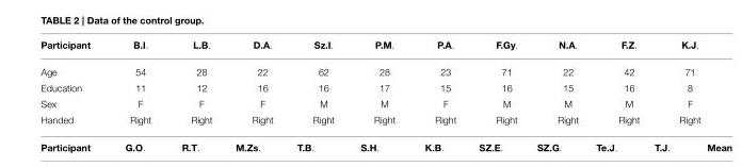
<table><thead><tr><td>Participant</td><td>B.I.</td><td>L.B.</td><td>D.A.</td><td>Sz.I.</td><td>P.M.</td><td>P.A.</td><td>F.Gy.</td><td>N.A.</td><td>F.Z.</td><td>K.J.</td></tr></thead><tbody><tr><td>Age</td><td>54</td><td>28</td><td>22</td><td>62</td><td>28</td><td>23</td><td>71</td><td>22</td><td>42</td><td>71</td></tr><tr><td>Education</td><td>11</td><td>12</td><td>16</td><td>16</td><td>17</td><td>15</td><td>16</td><td>15</td><td>16</td><td>8</td></tr><tr><td>Sex</td><td>F</td><td>F</td><td>F</td><td>M</td><td>M</td><td>F</td><td>M</td><td>M</td><td>M</td><td>F</td></tr><tr><td>Handed</td><td>Right</td><td>Right</td><td>Right</td><td>Right</td><td>Right</td><td>Right</td><td>Right</td><td>Right</td><td>Right</td><td>Right</td></tr></tbody></table>